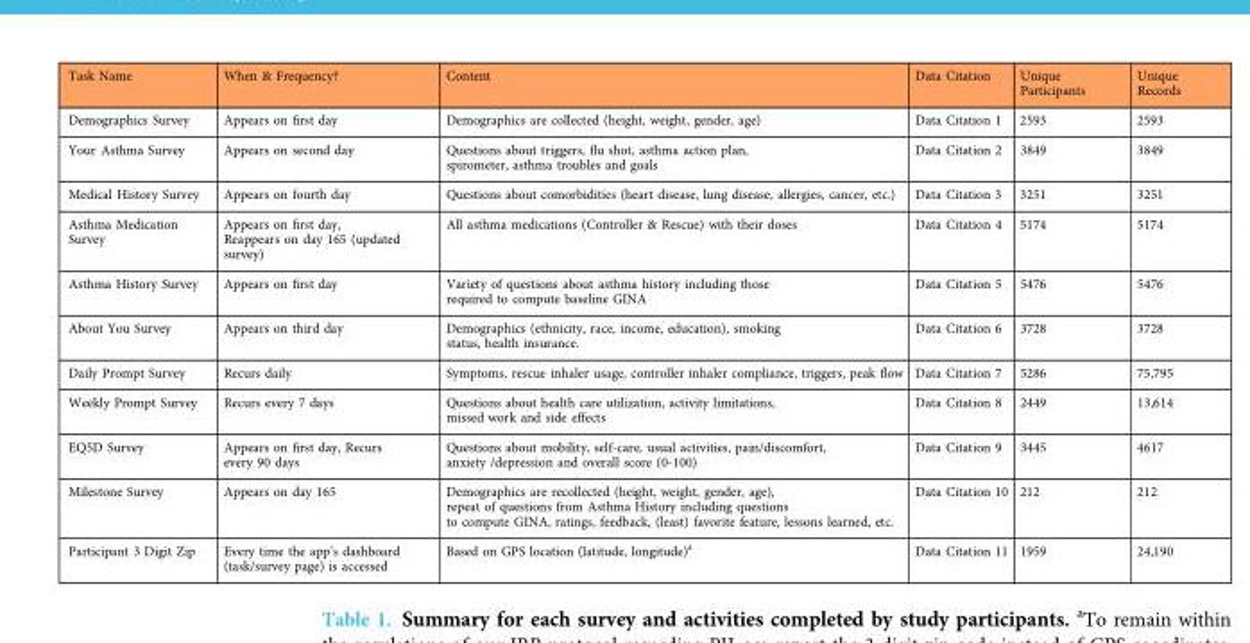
<table><thead><tr><td>Task Name</td><td>When &amp; Frequency?</td><td>Content</td><td>Data Citation</td><td>Unique Participants</td><td>Unique Records</td></tr></thead><tbody><tr><td>Demographics Survey</td><td>Appears on first day</td><td>Demographics are collected (height, weight, gender, age)</td><td>Data Citation 1</td><td>2593</td><td>2593</td></tr><tr><td>Your Asthma Survey</td><td>Appears on second day</td><td>Questions about triggers, flu shot, asthma action plan, spirometer, asthma troubles and goals</td><td>Data Citation 2</td><td>3849</td><td>3849</td></tr><tr><td>Medical History Survey</td><td>Appears on fourth day</td><td>Questions about comorbidities (heart disease, lung disease, allergies, cancer, etc.)</td><td>Data Citation 3</td><td>3251</td><td>3251</td></tr><tr><td>Asthma Medication Survey</td><td>Appears on first day, Reappears on day 165 (updated survey)</td><td>All asthma medications (Controller &amp; Rescue) with their doses</td><td>Data Citation 4</td><td>5174</td><td>5174</td></tr><tr><td>Asthma History Survey</td><td>Appears on first day</td><td>Variety of questions about asthma history including those required to compute baseline GINA</td><td>Data Citation 5</td><td>5476</td><td>5476</td></tr><tr><td>About You Survey</td><td>Appears on third day</td><td>Demographics (ethnicity, race, income, education), smoking status, health insurance.</td><td>Data Citation 6</td><td>3728</td><td>3728</td></tr><tr><td>Daily Prompt Survey</td><td>Recurs daily</td><td>Symptoms, rescue inhaler usage, controller inhaler compliance, triggers, peak flow</td><td>Data Citation 7</td><td>5286</td><td>75,795</td></tr><tr><td>Weekly Prompt Survey</td><td>Recurs every 7 days</td><td>Questions about health care utilization, activity limitations, missed work and side effects</td><td>Data Citation 8</td><td>2449</td><td>13,614</td></tr><tr><td>EQ5D Survey</td><td>Appears on first day, Recurs every 90 days</td><td>Questions about mobility, self-care, usual activities, pain/discomfort, anxiety /depression and overall score (0-100)</td><td>Data Citation 9</td><td>3445</td><td>4617</td></tr><tr><td>Milestone Survey</td><td>Appears on day 165</td><td>Demographics are recollected (height, weight, gender, age), repeat of questions from Asthma History including questions to compute GINA, ratings, feedback, (least) favorite feature, lessons learned, etc.</td><td>Data Citation 10</td><td>212</td><td>212</td></tr><tr><td>Participant 3 Digit Zip</td><td>Every time the app’s dashboard (task/survey page) is accessed</td><td>Based on GPS location (latitude, longitude)<sup>a</sup></td><td>Data Citation 11</td><td>1959</td><td>24,190</td></tr></tbody></table>